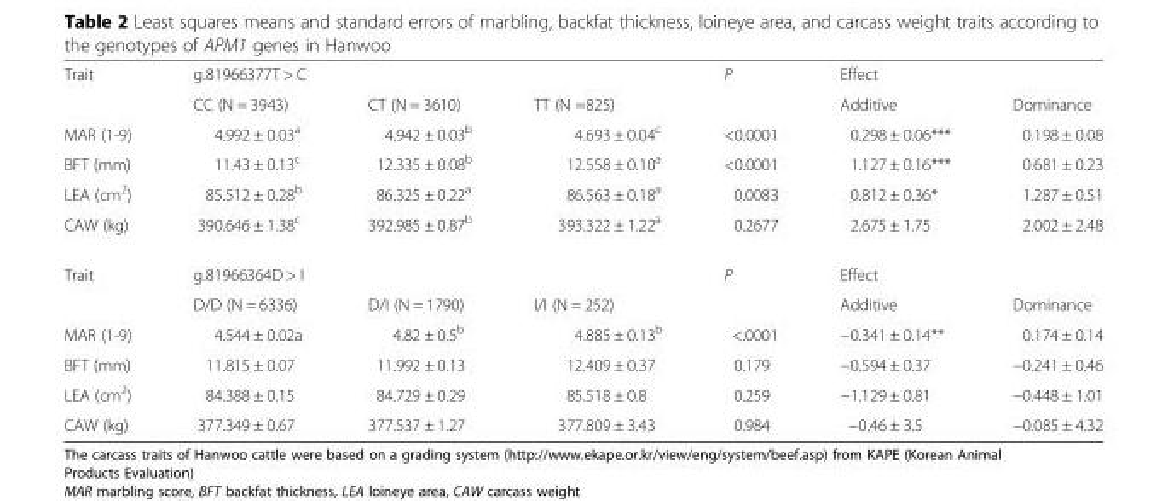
<table><tbody><tr><td rowspan="2">Trait</td><td>g.81966377T &gt; C</td><td></td><td></td><td>P</td><td>Effect</td><td></td></tr><tr><td>CC (N = 3943)</td><td>CT (N = 3610)</td><td>TT (N =825)</td><td></td><td>Additive</td><td>Dominance</td></tr><tr><td>MAR (1-9)</td><td>4.992 ± 0.03<sup>a</sup></td><td>4.942 ± 0.03<sup>b</sup></td><td>4.693 ± 0.04<sup>c</sup></td><td>&lt;0.0001</td><td>0.298 ± 0.06***</td><td>0.198 ± 0.08</td></tr><tr><td>BFT (mm)</td><td>11.43 ± 0.13<sup>c</sup></td><td>12.335 ± 0.08<sup>b</sup></td><td>12.558 ± 0.10<sup>a</sup></td><td>&lt;0.0001</td><td>1.127 ± 0.16***</td><td>0.681 ± 0.23</td></tr><tr><td>LEA (cm<sup>2</sup>)</td><td>85.512 ± 0.28<sup>b</sup></td><td>86.325 ± 0.22<sup>a</sup></td><td>86.563 ± 0.18<sup>a</sup></td><td>0.0083</td><td>0.812 ± 0.36*</td><td>1.287 ± 0.51</td></tr><tr><td>CAW (kg)</td><td>390.646 ± 1.38<sup>c</sup></td><td>392.985 ± 0.87<sup>b</sup></td><td>393.322 ± 1.22<sup>a</sup></td><td>0.2677</td><td>2.675 ± 1.75</td><td>2.002 ± 2.48</td></tr><tr><td rowspan="2">Trait</td><td>g.81966364D &gt; I</td><td></td><td></td><td>P</td><td>Effect</td><td></td></tr><tr><td>D/D (N = 6336)</td><td>D/I (N = 1790)</td><td>I/I (N = 252)</td><td></td><td>Additive</td><td>Dominance</td></tr><tr><td>MAR (1-9)</td><td>4.544 ± 0.02a</td><td>4.82 ± 0.5<sup>b</sup></td><td>4.885 ± 0.13<sup>b</sup></td><td>&lt;.0001</td><td>−0.341 ± 0.14**</td><td>0.174 ± 0.14</td></tr><tr><td>BFT (mm)</td><td>11.815 ± 0.07</td><td>11.992 ± 0.13</td><td>12.409 ± 0.37</td><td>0.179</td><td>−0.594 ± 0.37</td><td>−0.241 ± 0.46</td></tr><tr><td>LEA (cm<sup>2</sup>)</td><td>84.388 ± 0.15</td><td>84.729 ± 0.29</td><td>85.518 ± 0.8</td><td>0.259</td><td>−1.129 ± 0.81</td><td>−0.448 ± 1.01</td></tr><tr><td>CAW (kg)</td><td>377.349 ± 0.67</td><td>377.537 ± 1.27</td><td>377.809 ± 3.43</td><td>0.984</td><td>−0.46 ± 3.5</td><td>−0.085 ± 4.32</td></tr></tbody></table>